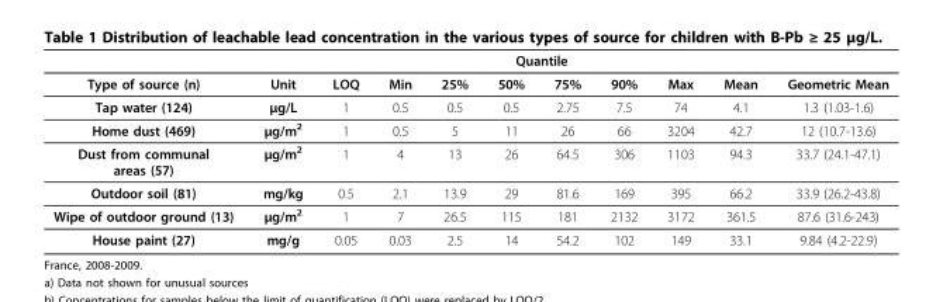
<table><thead><tr><td rowspan="2">Type of source (n)</td><td rowspan="2">Unit</td><td rowspan="2">LOQ</td><td colspan="6">Quantile</td><td rowspan="2">Mean</td><td rowspan="2">Geometric Mean</td></tr><tr><td>Min</td><td>25%</td><td>50%</td><td>75%</td><td>90%</td><td>Max</td></tr></thead><tbody><tr><td>Tap water (124)</td><td>μg/L</td><td>1</td><td>0.5</td><td>0.5</td><td>0.5</td><td>2.75</td><td>7.5</td><td>74</td><td>4.1</td><td>1.3 (1.03-1.6)</td></tr><tr><td>Home dust (469)</td><td>μg/m<sup>2</sup></td><td>1</td><td>0.5</td><td>5</td><td>11</td><td>26</td><td>66</td><td>3204</td><td>42.7</td><td>12 (10.7-13.6)</td></tr><tr><td>Dust from communal areas (57)</td><td>μg/m<sup>2</sup></td><td>1</td><td>4</td><td>13</td><td>26</td><td>64.5</td><td>306</td><td>1103</td><td>94.3</td><td>33.7 (24.1-47.1)</td></tr><tr><td>Outdoor soil (81)</td><td>mg/kg</td><td>0.5</td><td>2.1</td><td>13.9</td><td>29</td><td>81.6</td><td>169</td><td>395</td><td>66.2</td><td>33.9 (26.2-43.8)</td></tr><tr><td>Wipe of outdoor ground (13)</td><td>μg/m<sup>2</sup></td><td>1</td><td>7</td><td>26.5</td><td>115</td><td>181</td><td>2132</td><td>3172</td><td>361.5</td><td>87.6 (31.6-243)</td></tr><tr><td>House paint (27)</td><td>mg/g</td><td>0.05</td><td>0.03</td><td>2.5</td><td>14</td><td>54.2</td><td>102</td><td>149</td><td>33.1</td><td>9.84 (4.2-22.9)</td></tr></tbody></table>